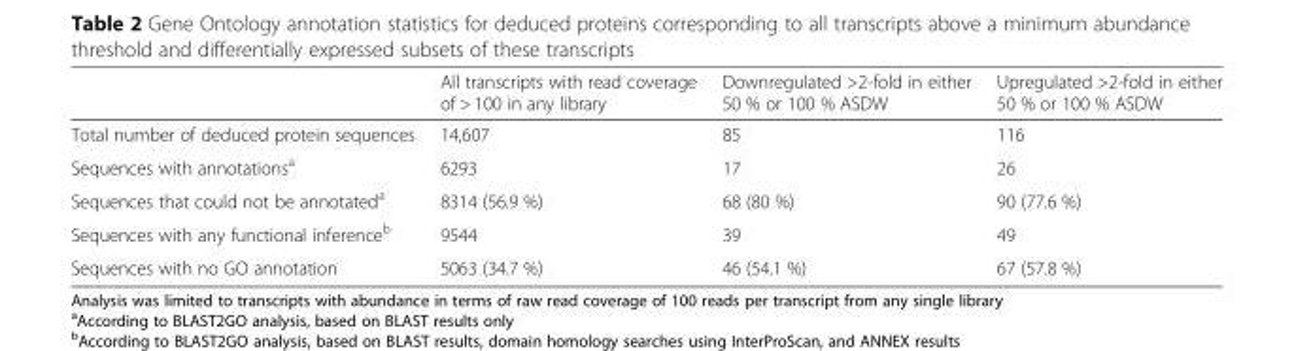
<table><thead><tr><td></td><td>All transcripts with read coverage of &gt; 100 in any library</td><td>Downregulated &gt;2-fold in either 50 % or 100 % ASDW</td><td>Upregulated &gt;2-fold in either 50 % or 100 % ASDW</td></tr></thead><tbody><tr><td>Total number of deduced protein sequences</td><td>14,607</td><td>85</td><td>116</td></tr><tr><td>Sequences with annotations<sup>a</sup></td><td>6293</td><td>17</td><td>26</td></tr><tr><td>Sequences that could not be annotated<sup>a</sup></td><td>8314 (56.9 %)</td><td>68 (80 %)</td><td>90 (77.6 %)</td></tr><tr><td>Sequences with any functional inference<sup>b</sup></td><td>9544</td><td>39</td><td>49</td></tr><tr><td>Sequences with no GO annotation</td><td>5063 (34.7 %)</td><td>46 (54.1 %)</td><td>67 (57.8 %)</td></tr></tbody></table>